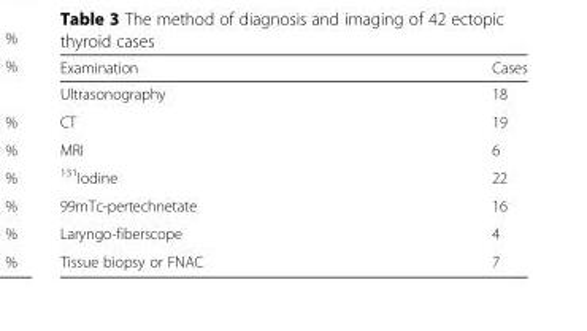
<table><thead><tr><td>Examination</td><td>Cases</td></tr></thead><tbody><tr><td>Ultrasonography</td><td>18</td></tr><tr><td>CT</td><td>19</td></tr><tr><td>MRI</td><td>6</td></tr><tr><td><sup>131</sup>Iodine</td><td>22</td></tr><tr><td>99mTc-pertechnetate</td><td>16</td></tr><tr><td>Laryngo-fiberscope</td><td>4</td></tr><tr><td>Tissue biopsy or FNAC</td><td>7</td></tr></tbody></table>